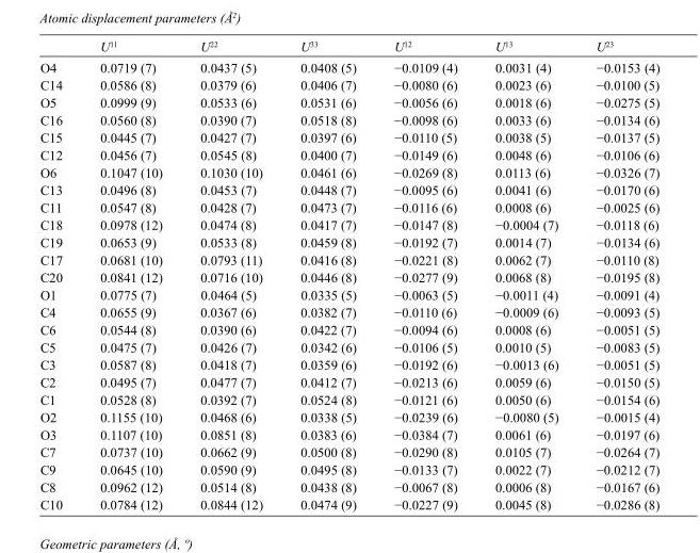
<table><thead><tr><td></td><td>U<sup>11</sup></td><td>U<sup>22</sup></td><td>U<sup>33</sup></td><td>U<sup>12</sup></td><td>U<sup>13</sup></td><td>U<sup>23</sup></td></tr></thead><tbody><tr><td>O4</td><td>0.0719 (7)</td><td>0.0437 (5)</td><td>0.0408 (5)</td><td>−0.0109 (4)</td><td>0.0031 (4)</td><td>−0.0153 (4)</td></tr><tr><td>C14</td><td>0.0586 (8)</td><td>0.0379 (6)</td><td>0.0406 (7)</td><td>−0.0080 (6)</td><td>0.0023 (6)</td><td>−0.0100 (5)</td></tr><tr><td>O5</td><td>0.0999 (9)</td><td>0.0533 (6)</td><td>0.0531 (6)</td><td>−0.0056 (6)</td><td>0.0018 (6)</td><td>−0.0275 (5)</td></tr><tr><td>C16</td><td>0.0560 (8)</td><td>0.0390 (7)</td><td>0.0518 (8)</td><td>−0.0098 (6)</td><td>0.0033 (6)</td><td>−0.0134 (6)</td></tr><tr><td>C15</td><td>0.0445 (7)</td><td>0.0427 (7)</td><td>0.0397 (6)</td><td>−0.0110 (5)</td><td>0.0038 (5)</td><td>−0.0137 (5)</td></tr><tr><td>C12</td><td>0.0456 (7)</td><td>0.0545 (8)</td><td>0.0400 (7)</td><td>−0.0149 (6)</td><td>0.0048 (6)</td><td>−0.0106 (6)</td></tr><tr><td>O6</td><td>0.1047 (10)</td><td>0.1030 (10)</td><td>0.0461 (6)</td><td>−0.0269 (8)</td><td>0.0113 (6)</td><td>−0.0326 (7)</td></tr><tr><td>C13</td><td>0.0496 (8)</td><td>0.0453 (7)</td><td>0.0448 (7)</td><td>−0.0095 (6)</td><td>0.0041 (6)</td><td>−0.0170 (6)</td></tr><tr><td>C11</td><td>0.0547 (8)</td><td>0.0428 (7)</td><td>0.0473 (7)</td><td>−0.0116 (6)</td><td>0.0008 (6)</td><td>−0.0025 (6)</td></tr><tr><td>C18</td><td>0.0978 (12)</td><td>0.0474 (8)</td><td>0.0417 (7)</td><td>−0.0147 (8)</td><td>−0.0004 (7)</td><td>−0.0118 (6)</td></tr><tr><td>C19</td><td>0.0653 (9)</td><td>0.0533 (8)</td><td>0.0459 (8)</td><td>−0.0192 (7)</td><td>0.0014 (7)</td><td>−0.0134 (6)</td></tr><tr><td>C17</td><td>0.0681 (10)</td><td>0.0793 (11)</td><td>0.0416 (8)</td><td>−0.0221 (8)</td><td>0.0062 (7)</td><td>−0.0110 (8)</td></tr><tr><td>C20</td><td>0.0841 (12)</td><td>0.0716 (10)</td><td>0.0446 (8)</td><td>−0.0277 (9)</td><td>0.0068 (8)</td><td>−0.0195 (8)</td></tr><tr><td>O1</td><td>0.0775 (7)</td><td>0.0464 (5)</td><td>0.0335 (5)</td><td>−0.0063 (5)</td><td>−0.0011 (4)</td><td>−0.0091 (4)</td></tr><tr><td>C4</td><td>0.0655 (9)</td><td>0.0367 (6)</td><td>0.0382 (7)</td><td>−0.0110 (6)</td><td>−0.0009 (6)</td><td>−0.0093 (5)</td></tr><tr><td>C6</td><td>0.0544 (8)</td><td>0.0390 (6)</td><td>0.0422 (7)</td><td>−0.0094 (6)</td><td>0.0008 (6)</td><td>−0.0051 (5)</td></tr><tr><td>C5</td><td>0.0475 (7)</td><td>0.0426 (7)</td><td>0.0342 (6)</td><td>−0.0106 (5)</td><td>0.0010 (5)</td><td>−0.0083 (5)</td></tr><tr><td>C3</td><td>0.0587 (8)</td><td>0.0418 (7)</td><td>0.0359 (6)</td><td>−0.0192 (6)</td><td>−0.0013 (6)</td><td>−0.0051 (5)</td></tr><tr><td>C2</td><td>0.0495 (7)</td><td>0.0477 (7)</td><td>0.0412 (7)</td><td>−0.0213 (6)</td><td>0.0059 (6)</td><td>−0.0150 (5)</td></tr><tr><td>C1</td><td>0.0528 (8)</td><td>0.0392 (7)</td><td>0.0524 (8)</td><td>−0.0121 (6)</td><td>0.0050 (6)</td><td>−0.0154 (6)</td></tr><tr><td>O2</td><td>0.1155 (10)</td><td>0.0468 (6)</td><td>0.0338 (5)</td><td>−0.0239 (6)</td><td>−0.0080 (5)</td><td>−0.0015 (4)</td></tr><tr><td>O3</td><td>0.1107 (10)</td><td>0.0851 (8)</td><td>0.0383 (6)</td><td>−0.0384 (7)</td><td>0.0061 (6)</td><td>−0.0197 (6)</td></tr><tr><td>C7</td><td>0.0737 (10)</td><td>0.0662 (9)</td><td>0.0500 (8)</td><td>−0.0290 (8)</td><td>0.0105 (7)</td><td>−0.0264 (7)</td></tr><tr><td>C9</td><td>0.0645 (10)</td><td>0.0590 (9)</td><td>0.0495 (8)</td><td>−0.0133 (7)</td><td>0.0022 (7)</td><td>−0.0212 (7)</td></tr><tr><td>C8</td><td>0.0962 (12)</td><td>0.0514 (8)</td><td>0.0438 (8)</td><td>−0.0067 (8)</td><td>0.0006 (8)</td><td>−0.0167 (6)</td></tr><tr><td>C10</td><td>0.0784 (12)</td><td>0.0844 (12)</td><td>0.0474 (9)</td><td>−0.0227 (9)</td><td>0.0045 (8)</td><td>−0.0286 (8)</td></tr></tbody></table>